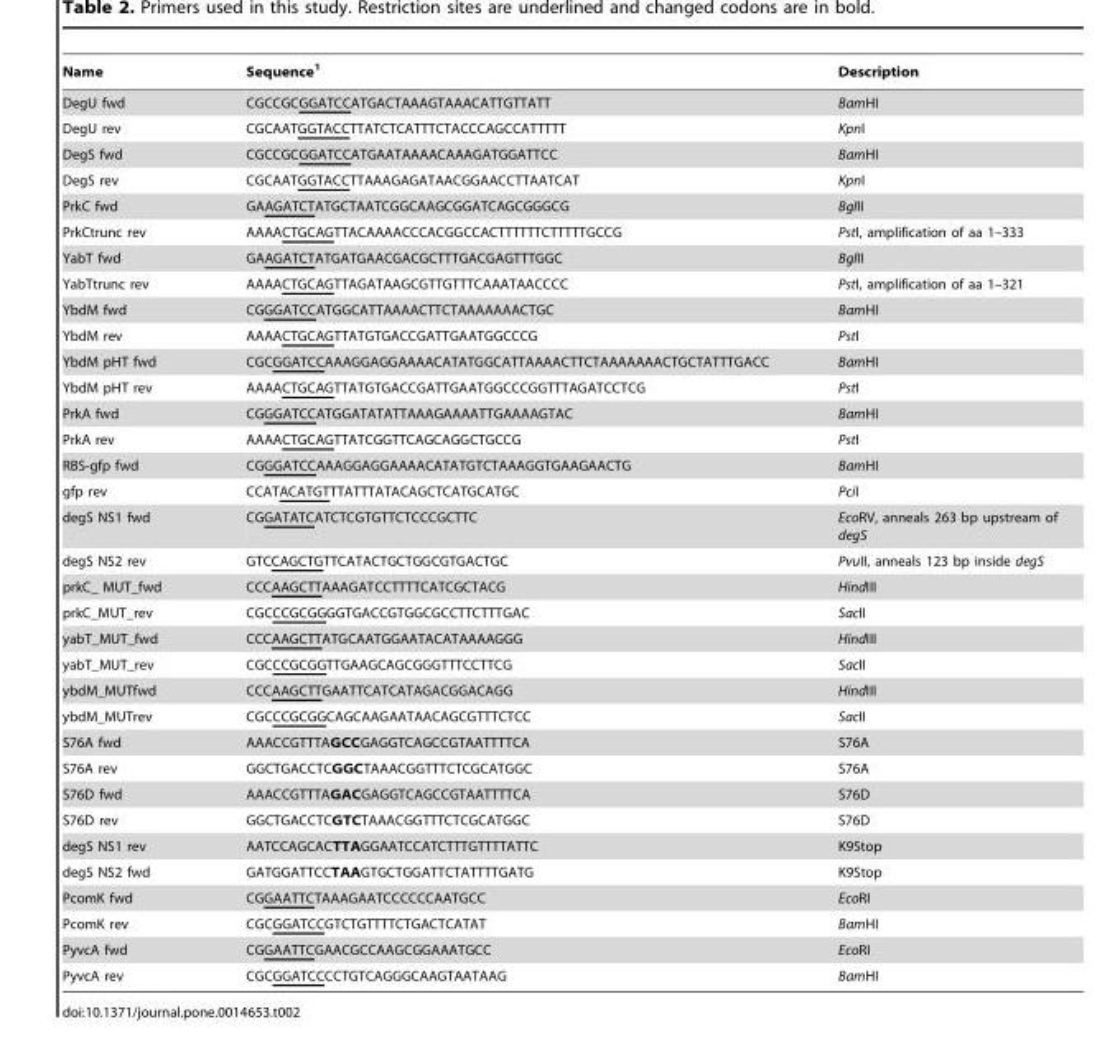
<table><thead><tr><td>Name</td><td>Sequence<sup>1</sup></td><td>Description</td></tr></thead><tbody><tr><td>DegU fwd</td><td>CGCCGCGGATCCATGACTAAAGTAAACATTGTTATT</td><td>BamHI</td></tr><tr><td>DegU rev</td><td>CGCAATGGTACCTTATCTCATTTCTACCCAGCCATTTTT</td><td>KpnI</td></tr><tr><td>DegS fwd</td><td>CGCCGCGGATCCATGAATAAAACAAAGATGGATTCC</td><td>BamHI</td></tr><tr><td>DegS rev</td><td>CGCAATGGTACCTTAAAGAGATAACGGAACCTTAATCAT</td><td>KpnI</td></tr><tr><td>PrkC fwd</td><td>GAAGATCTATGCTAATCGGCAAGCGGATCAGCGGGCG</td><td>BglII</td></tr><tr><td>PrkCtrunc rev</td><td>AAAACTGCAGTTACAAAACCCACGGCCACTTTTTTCTTTTTGCCG</td><td>PstI, amplification of aa 1–333</td></tr><tr><td>YabT fwd</td><td>GAAGATCTATGATGAACGACGCTTTGACGAGTTTGGC</td><td>BglII</td></tr><tr><td>YabTtrunc rev</td><td>AAAACTGCAGTTAGATAAGCGTTGTTTCAAATAACCCC</td><td>PstI, amplification of aa 1–321</td></tr><tr><td>YbdM fwd</td><td>CGGGATCCATGGCATTAAAACTTCTAAAAAAACTGC</td><td>BamHI</td></tr><tr><td>YbdM rev</td><td>AAAACTGCAGTTATGTGACCGATTGAATGGCCCG</td><td>PstI</td></tr><tr><td>YbdM pHT fwd</td><td>CGCGGATCCAAAGGAGGAAAACATATGGCATTAAAACTTCTAAAAAAACTGCTATTTGACC</td><td>BamHI</td></tr><tr><td>YbdM pHT rev</td><td>AAAACTGCAGTTATGTGACCGATTGAATGGCCCGGTTTAGATCCTCG</td><td>PstI</td></tr><tr><td>PrkA fwd</td><td>CGGGATCCATGGATATATTAAAGAAAATTGAAAAGTAC</td><td>BamHI</td></tr><tr><td>PrkA rev</td><td>AAAACTGCAGTTATCGGTTCAGCAGGCTGCCG</td><td>PstI</td></tr><tr><td>RBS-gfp fwd</td><td>CGGGATCCAAAGGAGGAAAACATATGTCTAAAGGTGAAGAACTG</td><td>BamHI</td></tr><tr><td>gfp rev</td><td>CCATACATGTTTATTTATACAGCTCATGCATGC</td><td>PciI</td></tr><tr><td>degS NS1 fwd</td><td>CGGATATCATCTCGTGTTCTCCCGCTTC</td><td>EcoRV, anneals 263 bp upstream of degS</td></tr><tr><td>degS NS2 rev</td><td>GTCCAGCTGTTCATACTGCTGGCGTGACTGC</td><td>PvuII, anneals 123 bp inside degS</td></tr><tr><td>prkC_ MUT_fwd</td><td>CCCAAGCTTAAAGATCCTTTTCATCGCTACG</td><td>HindIII</td></tr><tr><td>prkC_MUT_rev</td><td>CGCCCGCGGGGTGACCGTGGCGCCTTCTTTGAC</td><td>SacII</td></tr><tr><td>yabT_MUT_fwd</td><td>CCCAAGCTTATGCAATGGAATACATAAAAGGG</td><td>HindIII</td></tr><tr><td>yabT_MUT_rev</td><td>CGCCCGCGGTTGAAGCAGCGGGTTTCCTTCG</td><td>SacII</td></tr><tr><td>ybdM_MUTfwd</td><td>CCCAAGCTTGAATTCATCATAGACGGACAGG</td><td>HindIII</td></tr><tr><td>ybdM_MUTrev</td><td>CGCCCGCGGCAGCAAGAATAACAGCGTTTCTCC</td><td>SacII</td></tr><tr><td>S76A fwd</td><td>AAACCGTTTAGCCGAGGTCAGCCGTAATTTTCA</td><td>S76A</td></tr><tr><td>S76A rev</td><td>GGCTGACCTCGGCTAAACGGTTTCTCGCATGGC</td><td>S76A</td></tr><tr><td>S76D fwd</td><td>AAACCGTTTAGACGAGGTCAGCCGTAATTTTCA</td><td>S76D</td></tr><tr><td>S76D rev</td><td>GGCTGACCTCGTCTAAACGGTTTCTCGCATGGC</td><td>S76D</td></tr><tr><td>degS NS1 rev</td><td>AATCCAGCACTTAGGAATCCATCTTTGTTTTATTC</td><td>K9Stop</td></tr><tr><td>degS NS2 fwd</td><td>GATGGATTCCTAAGTGCTGGATTCTATTTTGATG</td><td>K9Stop</td></tr><tr><td>PcomK fwd</td><td>CGGAATTCTAAAGAATCCCCCCAATGCC</td><td>EcoRI</td></tr><tr><td>PcomK rev</td><td>CGCGGATCCGTCTGTTTTCTGACTCATAT</td><td>BamHI</td></tr><tr><td>PyvcA fwd</td><td>CGGAATTCGAACGCCAAGCGGAAATGCC</td><td>EcoRI</td></tr><tr><td>PyvcA rev</td><td>CGCGGATCCCCTGTCAGGGCAAGTAATAAG</td><td>BamHI</td></tr></tbody></table>